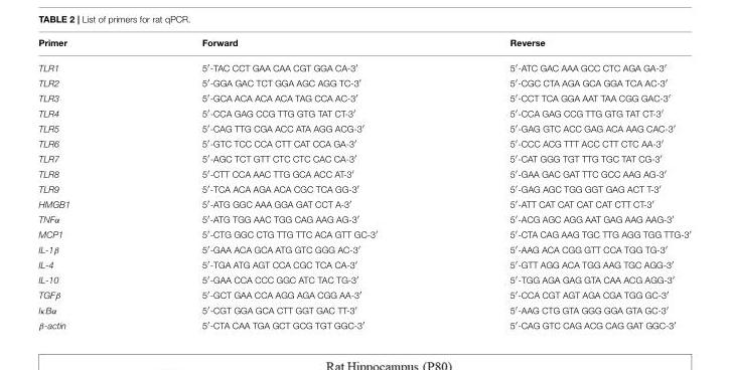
<table><thead><tr><td>Primer</td><td>Forward</td><td>Reverse</td></tr></thead><tbody><tr><td>TLR1</td><td>5′-TAC CCT GAA CAA CGT GGA CA-3′</td><td>5′-ATC GAC AAA GCC CTC AGA GA-3′</td></tr><tr><td>TLR2</td><td>5′-GGA GAC TCT GGA AGC AGG TC-3′</td><td>5′-CGC CTA AGA GCA GGA TCA AC-3′</td></tr><tr><td>TLR3</td><td>5′-GCA ACA ACA ACA TAG CCA AC-3′</td><td>5′-CCT TCA GGA AAT TAA CGG GAC-3′</td></tr><tr><td>TLR4</td><td>5′-CCA GAG CCG TTG GTG TAT CT-3′</td><td>5′-CCA GAG CCG TTG GTG TAT CT-3′</td></tr><tr><td>TLR5</td><td>5′-CAG TTG CGA ACC ATA AGG ACG-3′</td><td>5′-GAG GTC ACC GAG ACA AAG CAC-3′</td></tr><tr><td>TLR6</td><td>5′-GTC TCC CCA CTT CAT CCA GA-3′</td><td>5′-CCC ACG TTT ACC CTT CTC AA-3′</td></tr><tr><td>TLR7</td><td>5′-AGC TCT GTT CTC CTC CAC CA-3′</td><td>5′-CAT GGG TGT TTG TGC TAT CG-3′</td></tr><tr><td>TLR8</td><td>5′-CTT CCA AAC TTG GCA ACC AT-3′</td><td>5′-GAA GAC GAT TTC GCC AAG AG-3′</td></tr><tr><td>TLR9</td><td>5′-TCA ACA AGA ACA CGC TCA GG-3′</td><td>5′-GAG AGC TGG GGT GAG ACT T-3′</td></tr><tr><td>HMGB1</td><td>5′-ATG GGC AAA GGA GAT CCT A-3′</td><td>5′-ATT CAT CAT CAT CAT CTT CT-3′</td></tr><tr><td>TNFα</td><td>5′-ATG TGG AAC TGG CAG AAG AG-3′</td><td>5′-ACG AGC AGG AAT GAG AAG AAG-3′</td></tr><tr><td>MCP1</td><td>5′-CTG GGC CTG TTG TTC ACA GTT GC-3′</td><td>5′-CTA CAG AAG TGC TTG AGG TGG TTG-3′</td></tr><tr><td>IL-1β</td><td>5′-GAA ACA GCA ATG GTC GGG AC-3′</td><td>5′-AAG ACA CGG GTT CCA TGG TG-3′</td></tr><tr><td>IL-4</td><td>5′-TGA ATG AGT CCA CGC TCA CA-3′</td><td>5′-GTT AGG ACA TGG AAG TGC AGG-3′</td></tr><tr><td>IL-10</td><td>5′-GAA CCA CCC GGC ATC TAC TG-3′</td><td>5′-TGG AGA GAG GTA CAA ACG AGG-3′</td></tr><tr><td>TGFβ</td><td>5′-GCT GAA CCA AGG AGA CGG AA-3′</td><td>5′-CCA CGT AGT AGA CGA TGG GC-3′</td></tr><tr><td>IκBα</td><td>5′-CGT GGA GCA CTT GGT GAC TT-3′</td><td>5′-AAG CTG GTA GGG GGA GTA GC-3′</td></tr><tr><td>β-actin</td><td>5′-CTA CAA TGA GCT GCG TGT GGC-3′</td><td>5′-CAG GTC CAG ACG CAG GAT GGC-3′</td></tr></tbody></table>